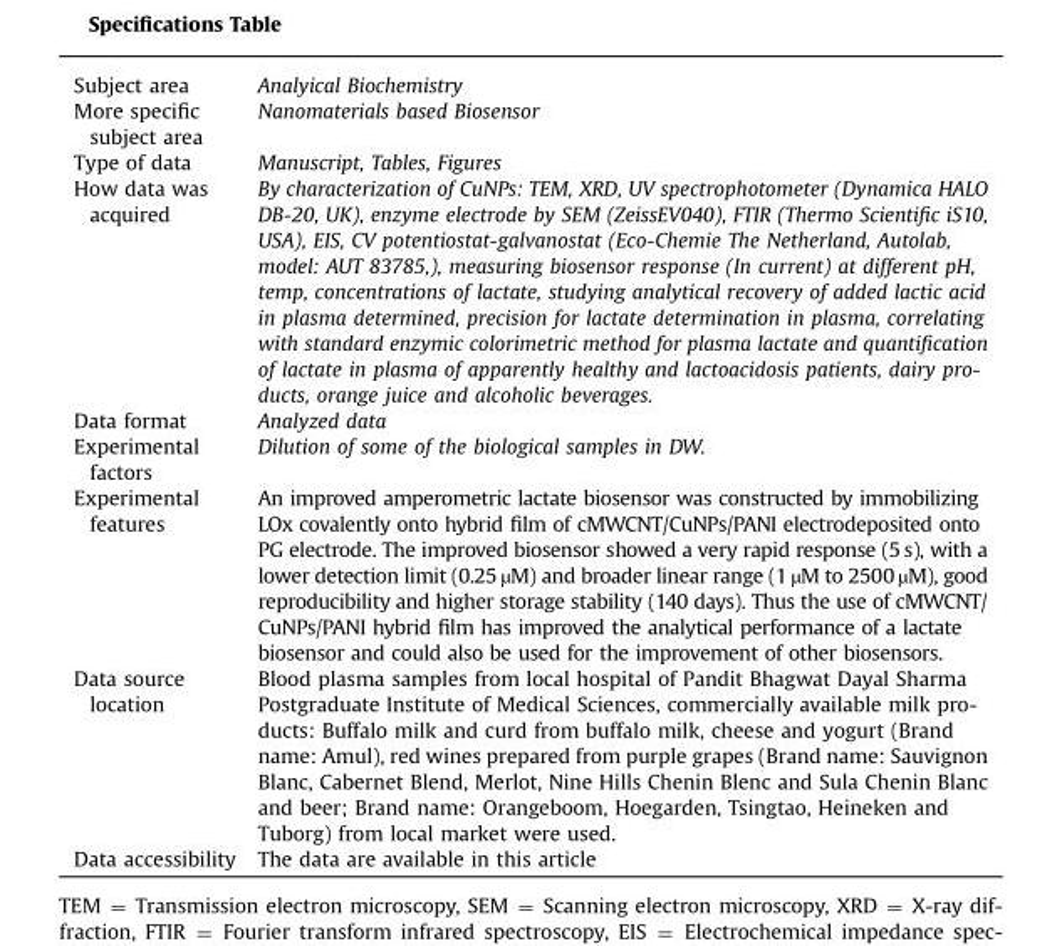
<table><tbody><tr><td>Subject area</td><td>Analyical Biochemistry</td></tr><tr><td>More specific subject area</td><td>Nanomaterials based Biosensor</td></tr><tr><td>Type of data</td><td>Manuscript, Tables, Figures</td></tr><tr><td>How data was acquired</td><td>By characterization of CuNPs: TEM, XRD, UV spectrophotometer (Dynamica HALO DB-20, UK), enzyme electrode by SEM (ZeissEV040), FTIR (Thermo Scientific iS10, USA), EIS, CV potentiostat-galvanostat (Eco-Chemie The Netherland, Autolab, model: AUT 83785,), measuring biosensor response (In current) at different pH, temp, concentrations of lactate, studying analytical recovery of added lactic acid in plasma determined, precision for lactate determination in plasma, correlating with standard enzymic colorimetric method for plasma lactate and quantification of lactate in plasma of apparently healthy and lactoacidosis patients, dairy pro- ducts, orange juice and alcoholic beverages.</td></tr><tr><td>Data format</td><td>Analyzed data</td></tr><tr><td>Experimental factors</td><td>Dilution of some of the biological samples in DW.</td></tr><tr><td>Experimental features</td><td>An improved amperometric lactate biosensor was constructed by immobilizing LOx covalently onto hybrid film of cMWCNT/CuNPs/PANI electrodeposited onto PG electrode. The improved biosensor showed a very rapid response (5 s), with a lower detection limit (0.25 µM) and broader linear range (1 µM to 2500 µM), good reproducibility and higher storage stability (140 days). Thus the use of cMWCNT/ CuNPs/PANI hybrid film has improved the analytical performance of a lactate biosensor and could also be used for the improvement of other biosensors.</td></tr><tr><td>Data source location</td><td>Blood plasma samples from local hospital of Pandit Bhagwat Dayal Sharma Postgraduate Institute of Medical Sciences, commercially available milk pro- ducts: Buffalo milk and curd from buffalo milk, cheese and yogurt (Brand name: Amul), red wines prepared from purple grapes (Brand name: Sauvignon Blanc, Cabernet Blend, Merlot, Nine Hills Chenin Blenc and Sula Chenin Blanc and beer; Brand name: Orangeboom, Hoegarden, Tsingtao, Heineken and Tuborg) from local market were used.</td></tr><tr><td>Data accessibility</td><td>The data are available in this article</td></tr></tbody></table>